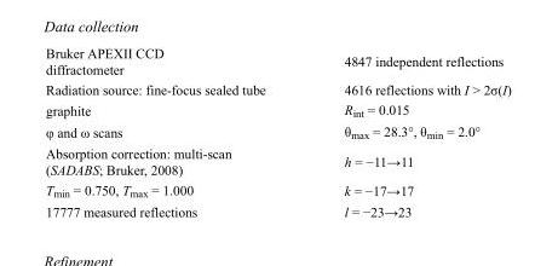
<table><tbody><tr><td>Bruker APEXII CCD diffractometer</td><td>4847 independent reflections</td></tr><tr><td>Radiation source: fine-focus sealed tube</td><td>4616 reflections with I &gt; 2σ(I)</td></tr><tr><td>graphite</td><td>R<sub>int</sub> = 0.015</td></tr><tr><td>φ and ω scans</td><td>θ<sub>max</sub> = 28.3°, θ<sub>min</sub> = 2.0°</td></tr><tr><td>Absorption correction: multi-scan (SADABS; Bruker, 2008)</td><td>h = −11→11</td></tr><tr><td>T<sub>min</sub> = 0.750, T<sub>max</sub> = 1.000</td><td>k = −17→17</td></tr><tr><td>17777 measured reflections</td><td>l = −23→23</td></tr></tbody></table>